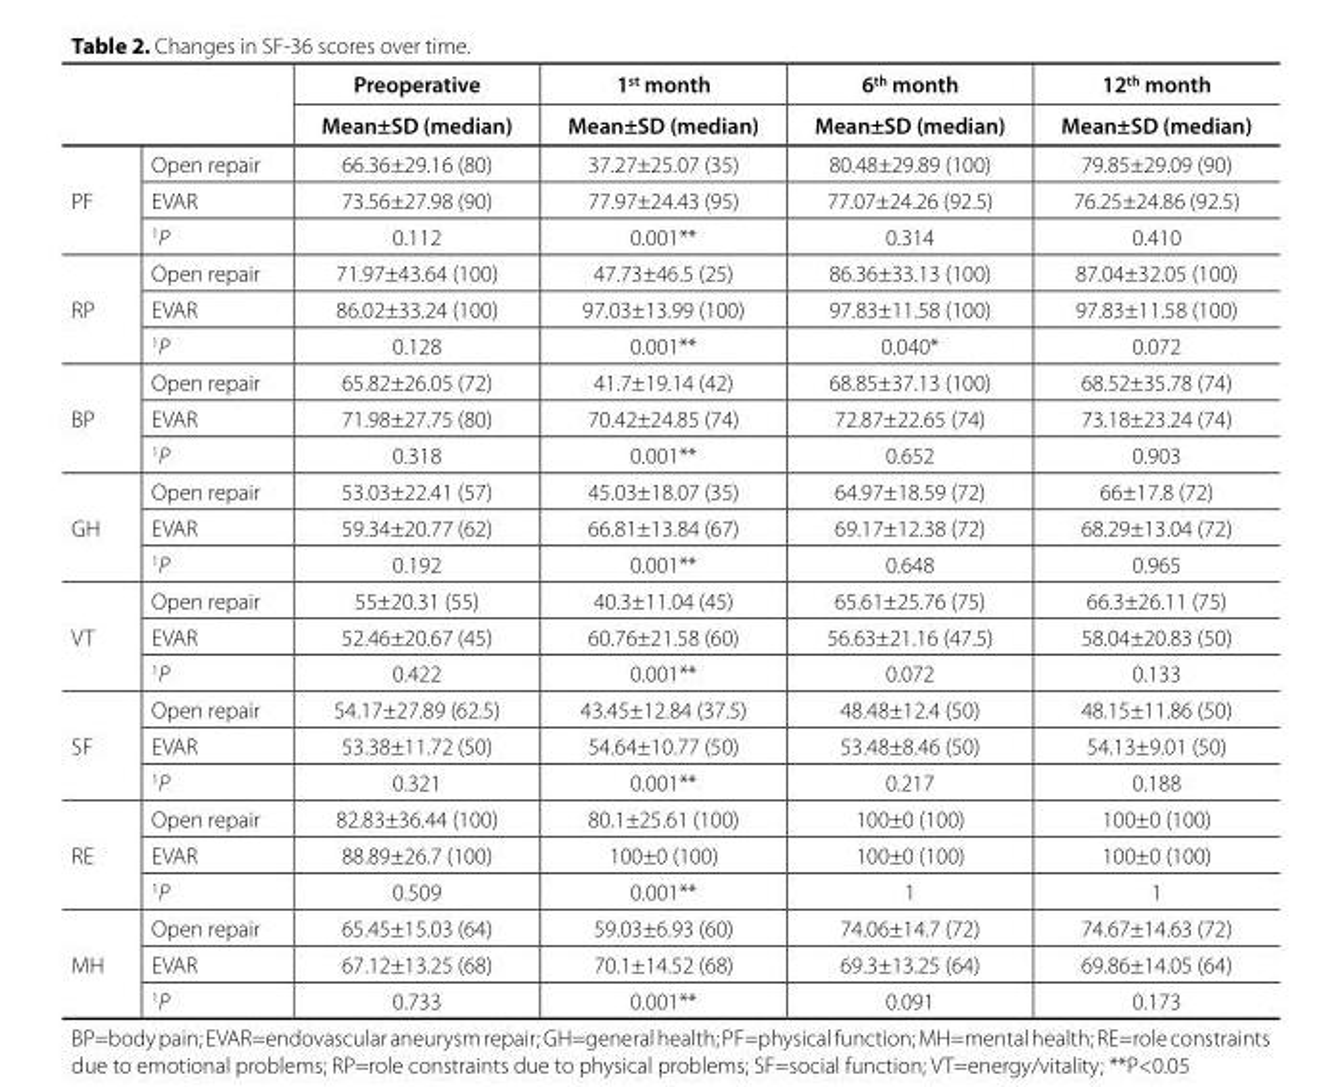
<table><thead><tr><td rowspan="2"></td><td rowspan="2"></td><td rowspan="2">Preoperative Mean±SD (median)</td><td rowspan="2">1<sup>st</sup> month Mean±SD (median)</td><td rowspan="2">6<sup>th</sup> month Mean±SD (median)</td><td rowspan="2">12<sup>th</sup> month Mean±SD (median)</td></tr><tr></tr></thead><tbody><tr><td rowspan="3">PF</td><td>Open repair</td><td>66.36±29.16 (80)</td><td>37.27±25.07 (35)</td><td>80.48±29.89 (100)</td><td>79.85±29.09 (90)</td></tr><tr><td>EVAR</td><td>73.56±27.98 (90)</td><td>77.97±24.43 (95)</td><td>77.07±24.26 (92.5)</td><td>76.25±24.86 (92.5)</td></tr><tr><td><sup>1</sup>P</td><td>0.112</td><td>0.001**</td><td>0.314</td><td>0.410</td></tr><tr><td rowspan="3">RP</td><td>Open repair</td><td>71.97±43.64 (100)</td><td>47.73±46.5 (25)</td><td>86.36±33.13 (100)</td><td>87.04±32.05 (100)</td></tr><tr><td>EVAR</td><td>86.02±33.24 (100)</td><td>97.03±13.99 (100)</td><td>97.83±11.58 (100)</td><td>97.83±11.58 (100)</td></tr><tr><td><sup>1</sup>P</td><td>0.128</td><td>0.001**</td><td>0.040*</td><td>0.072</td></tr><tr><td rowspan="3">BP</td><td>Open repair</td><td>65.82±26.05 (72)</td><td>41.7±19.14 (42)</td><td>68.85±37.13 (100)</td><td>68.52±35.78 (74)</td></tr><tr><td>EVAR</td><td>71.98±27.75 (80)</td><td>70.42±24.85 (74)</td><td>72.87±22.65 (74)</td><td>73.18±23.24 (74)</td></tr><tr><td><sup>1</sup>P</td><td>0.318</td><td>0.001**</td><td>0.652</td><td>0.903</td></tr><tr><td rowspan="3">GH</td><td>Open repair</td><td>53.03±22.41 (57)</td><td>45.03±18.07 (35)</td><td>64.97±18.59 (72)</td><td>66±17.8 (72)</td></tr><tr><td>EVAR</td><td>59.34±20.77 (62)</td><td>66.81±13.84 (67)</td><td>69.17±12.38 (72)</td><td>68.29±13.04 (72)</td></tr><tr><td><sup>1</sup>P</td><td>0.192</td><td>0.001**</td><td>0.648</td><td>0.965</td></tr><tr><td rowspan="3">VT</td><td>Open repair</td><td>55±20.31 (55)</td><td>40.3±11.04 (45)</td><td>65.61±25.76 (75)</td><td>66.3±26.11 (75)</td></tr><tr><td>EVAR</td><td>52.46±20.67 (45)</td><td>60.76±21.58 (60)</td><td>56.63±21.16 (47.5)</td><td>58.04±20.83 (50)</td></tr><tr><td><sup>1</sup>P</td><td>0.422</td><td>0.001**</td><td>0.072</td><td>0.133</td></tr><tr><td rowspan="3">SF</td><td>Open repair</td><td>54.17±27.89 (62.5)</td><td>43.45±12.84 (37.5)</td><td>48.48±12.4 (50)</td><td>48.15±11.86 (50)</td></tr><tr><td>EVAR</td><td>53.38±11.72 (50)</td><td>54.64±10.77 (50)</td><td>53.48±8.46 (50)</td><td>54.13±9.01 (50)</td></tr><tr><td><sup>1</sup>P</td><td>0.321</td><td>0.001**</td><td>0.217</td><td>0.188</td></tr><tr><td rowspan="3">RE</td><td>Open repair</td><td>82.83±36.44 (100)</td><td>80.1±25.61 (100)</td><td>100±0 (100)</td><td>100±0 (100)</td></tr><tr><td>EVAR</td><td>88.89±26.7 (100)</td><td>100±0 (100)</td><td>100±0 (100)</td><td>100±0 (100)</td></tr><tr><td><sup>1</sup>P</td><td>0.509</td><td>0.001**</td><td>1</td><td>1</td></tr><tr><td rowspan="3">MH</td><td>Open repair</td><td>65.45±15.03 (64)</td><td>59.03±6.93 (60)</td><td>74.06±14.7 (72)</td><td>74.67±14.63 (72)</td></tr><tr><td>EVAR</td><td>67.12±13.25 (68)</td><td>70.1±14.52 (68)</td><td>69.3±13.25 (64)</td><td>69.86±14.05 (64)</td></tr><tr><td><sup>1</sup>P</td><td>0.733</td><td>0.001**</td><td>0.091</td><td>0.173</td></tr></tbody></table>